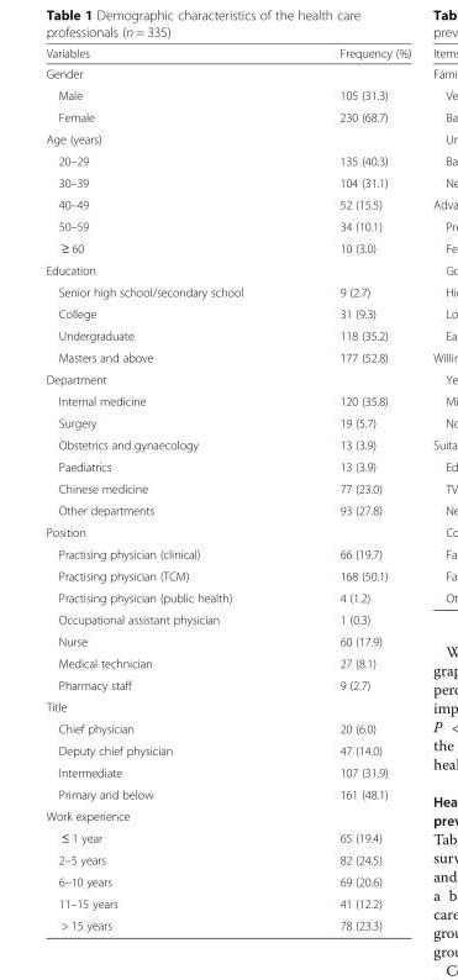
<table><thead><tr><td>Variables</td><td>Frequency (%)</td></tr></thead><tbody><tr><td colspan="2">Gender</td></tr><tr><td>Male</td><td>105 (31.3)</td></tr><tr><td>Female</td><td>230 (68.7)</td></tr><tr><td colspan="2">Age (years)</td></tr><tr><td>20–29</td><td>135 (40.3)</td></tr><tr><td>30–39</td><td>104 (31.1)</td></tr><tr><td>40–49</td><td>52 (15.5)</td></tr><tr><td>50–59</td><td>34 (10.1)</td></tr><tr><td>≥ 60</td><td>10 (3.0)</td></tr><tr><td colspan="2">Education</td></tr><tr><td>Senior high school/secondary school</td><td>9 (2.7)</td></tr><tr><td>College</td><td>31 (9.3)</td></tr><tr><td>Undergraduate</td><td>118 (35.2)</td></tr><tr><td>Masters and above</td><td>177 (52.8)</td></tr><tr><td colspan="2">Department</td></tr><tr><td>Internal medicine</td><td>120 (35.8)</td></tr><tr><td>Surgery</td><td>19 (5.7)</td></tr><tr><td>Obstetrics and gynaecology</td><td>13 (3.9)</td></tr><tr><td>Paediatrics</td><td>13 (3.9)</td></tr><tr><td>Chinese medicine</td><td>77 (23.0)</td></tr><tr><td>Other departments</td><td>93 (27.8)</td></tr><tr><td colspan="2">Position</td></tr><tr><td>Practising physician (clinical)</td><td>66 (19.7)</td></tr><tr><td>Practising physician (TCM)</td><td>168 (50.1)</td></tr><tr><td>Practising physician (public health)</td><td>4 (1.2)</td></tr><tr><td>Occupational assistant physician</td><td>1 (0.3)</td></tr><tr><td>Nurse</td><td>60 (17.9)</td></tr><tr><td>Medical technician</td><td>27 (8.1)</td></tr><tr><td>Pharmacy staff</td><td>9 (2.7)</td></tr><tr><td colspan="2">Title</td></tr><tr><td>Chief physician</td><td>20 (6.0)</td></tr><tr><td>Deputy chief physician</td><td>47 (14.0)</td></tr><tr><td>Intermediate</td><td>107 (31.9)</td></tr><tr><td>Primary and below</td><td>161 (48.1)</td></tr><tr><td colspan="2">Work experience</td></tr><tr><td>≤ 1 year</td><td>65 (19.4)</td></tr><tr><td>2–5 years</td><td>82 (24.5)</td></tr><tr><td>6–10 years</td><td>69 (20.6)</td></tr><tr><td>11–15 years</td><td>41 (12.2)</td></tr><tr><td>&gt; 15 years</td><td>78 (23.3)</td></tr></tbody></table>